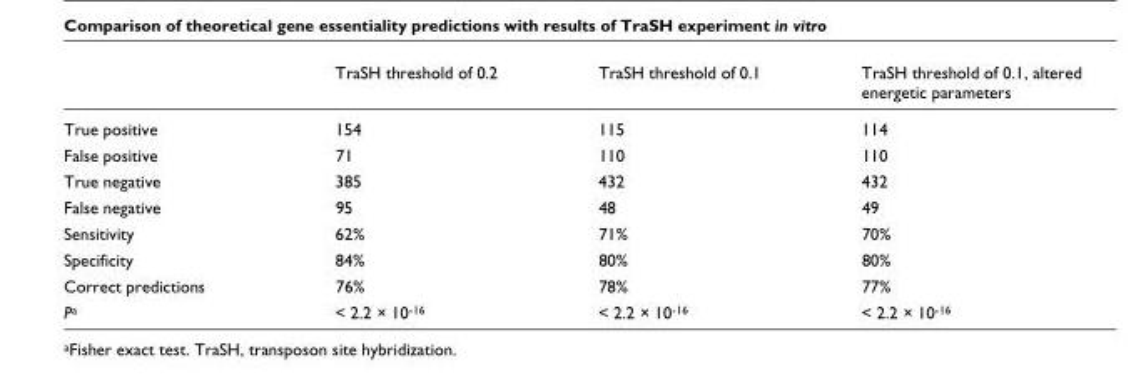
<table><thead><tr><td></td><td>TraSH threshold of 0.2</td><td>TraSH threshold of 0.1</td><td>TraSH threshold of 0.1, altered energetic parameters</td></tr></thead><tbody><tr><td>True positive</td><td>154</td><td>115</td><td>114</td></tr><tr><td>False positive</td><td>71</td><td>110</td><td>110</td></tr><tr><td>True negative</td><td>385</td><td>432</td><td>432</td></tr><tr><td>False negative</td><td>95</td><td>48</td><td>49</td></tr><tr><td>Sensitivity</td><td>62%</td><td>71%</td><td>70%</td></tr><tr><td>Specificity</td><td>84%</td><td>80%</td><td>80%</td></tr><tr><td>Correct predictions</td><td>76%</td><td>78%</td><td>77%</td></tr><tr><td>P<sup>a</sup></td><td>&lt; 2.2 × 10<sup>-16</sup></td><td>&lt; 2.2 × 10<sup>-16</sup></td><td>&lt; 2.2 × 10<sup>-16</sup></td></tr></tbody></table>